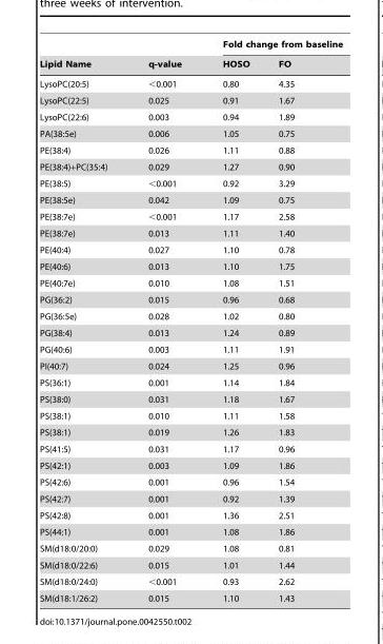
<table><thead><tr><td rowspan="2">Lipid Name</td><td rowspan="2">q-value</td><td colspan="2">Fold change from baseline</td></tr><tr><td>HOSO</td><td>FO</td></tr></thead><tbody><tr><td>LysoPC(20:5)</td><td>&lt;0.001</td><td>0.80</td><td>4.35</td></tr><tr><td>LysoPC(22:5)</td><td>0.025</td><td>0.91</td><td>1.67</td></tr><tr><td>LysoPC(22:6)</td><td>0.003</td><td>0.94</td><td>1.89</td></tr><tr><td>PA(38:5e)</td><td>0.006</td><td>1.05</td><td>0.75</td></tr><tr><td>PE(38:4)</td><td>0.026</td><td>1.11</td><td>0.88</td></tr><tr><td>PE(38:4)+PC(35:4)</td><td>0.029</td><td>1.27</td><td>0.90</td></tr><tr><td>PE(38:5)</td><td>&lt;0.001</td><td>0.92</td><td>3.29</td></tr><tr><td>PE(38:5e)</td><td>0.042</td><td>1.09</td><td>0.75</td></tr><tr><td>PE(38:7e)</td><td>&lt;0.001</td><td>1.17</td><td>2.58</td></tr><tr><td>PE(38:7e)</td><td>0.013</td><td>1.11</td><td>1.40</td></tr><tr><td>PE(40:4)</td><td>0.027</td><td>1.10</td><td>0.78</td></tr><tr><td>PE(40:6)</td><td>0.013</td><td>1.10</td><td>1.75</td></tr><tr><td>PE(40:7e)</td><td>0.010</td><td>1.08</td><td>1.51</td></tr><tr><td>PG(36:2)</td><td>0.015</td><td>0.96</td><td>0.68</td></tr><tr><td>PG(36:5e)</td><td>0.028</td><td>1.02</td><td>0.80</td></tr><tr><td>PG(38:4)</td><td>0.013</td><td>1.24</td><td>0.89</td></tr><tr><td>PG(40:6)</td><td>0.003</td><td>1.11</td><td>1.91</td></tr><tr><td>PI(40:7)</td><td>0.024</td><td>1.25</td><td>0.96</td></tr><tr><td>PS(36:1)</td><td>0.001</td><td>1.14</td><td>1.84</td></tr><tr><td>PS(38:0)</td><td>0.031</td><td>1.18</td><td>1.67</td></tr><tr><td>PS(38:1)</td><td>0.010</td><td>1.11</td><td>1.58</td></tr><tr><td>PS(38:1)</td><td>0.019</td><td>1.26</td><td>1.83</td></tr><tr><td>PS(41:5)</td><td>0.031</td><td>1.17</td><td>0.96</td></tr><tr><td>PS(42:1)</td><td>0.003</td><td>1.09</td><td>1.86</td></tr><tr><td>PS(42:6)</td><td>0.001</td><td>0.96</td><td>1.54</td></tr><tr><td>PS(42:7)</td><td>0.001</td><td>0.92</td><td>1.39</td></tr><tr><td>PS(42:8)</td><td>0.001</td><td>1.36</td><td>2.51</td></tr><tr><td>PS(44:1)</td><td>0.001</td><td>1.08</td><td>1.86</td></tr><tr><td>SM(d18:0/20:0)</td><td>0.029</td><td>1.08</td><td>0.81</td></tr><tr><td>SM(d18:0/22:6)</td><td>0.015</td><td>1.01</td><td>1.44</td></tr><tr><td>SM(d18:0/24:0)</td><td>&lt;0.001</td><td>0.93</td><td>2.62</td></tr><tr><td>SM(d18:1/26:2)</td><td>0.015</td><td>1.10</td><td>1.43</td></tr></tbody></table>